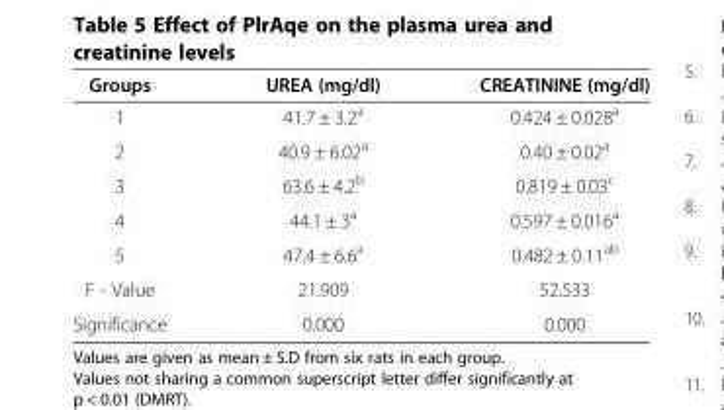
<table><thead><tr><td>Groups</td><td>UREA (mg/dl)</td><td>CREATININE (mg/dl)</td></tr></thead><tbody><tr><td>1</td><td>41.7 ± 3.2<sup>a</sup></td><td>0.424 ± 0.028<sup>a</sup></td></tr><tr><td>2</td><td>40.9 ± 6.02<sup>a</sup></td><td>0.40 ± 0.02<sup>a</sup></td></tr><tr><td>3</td><td>63.6 ± 4.2<sup>b</sup></td><td>0.819 ± 0.03<sup>c</sup></td></tr><tr><td>4</td><td>44.1 ± 3<sup>a</sup></td><td>0.597 ± 0.016<sup>a</sup></td></tr><tr><td>5</td><td>47.4 ± 6.6<sup>a</sup></td><td>0.482 ± 0.11<sup>ab</sup></td></tr><tr><td>F - Value</td><td>21.909</td><td>52.533</td></tr><tr><td>Significance</td><td>0.000</td><td>0.000</td></tr></tbody></table>